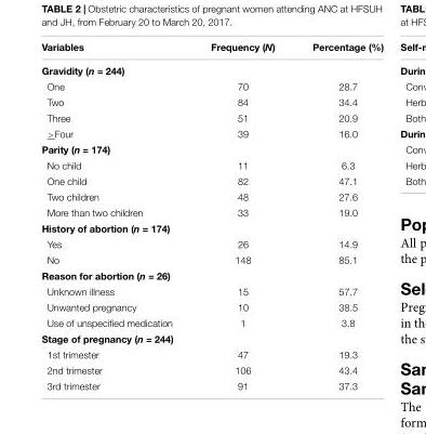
<table><thead><tr><td>Variables</td><td>Frequency (N)</td><td>Percentage (%)</td></tr></thead><tbody><tr><td colspan="3">Gravidity (n = 244)</td></tr><tr><td>One</td><td>70</td><td>28.7</td></tr><tr><td>Two</td><td>84</td><td>34.4</td></tr><tr><td>Three</td><td>51</td><td>20.9</td></tr><tr><td>&gt;Four</td><td>39</td><td>16.0</td></tr><tr><td colspan="3">Parity (n = 174)</td></tr><tr><td>No child</td><td>11</td><td>6.3</td></tr><tr><td>One child</td><td>82</td><td>47.1</td></tr><tr><td>Two children</td><td>48</td><td>27.6</td></tr><tr><td>More than two children</td><td>33</td><td>19.0</td></tr><tr><td colspan="3">History of abortion (n = 174)</td></tr><tr><td>Yes</td><td>26</td><td>14.9</td></tr><tr><td>No</td><td>148</td><td>85.1</td></tr><tr><td colspan="3">Reason for abortion (n = 26)</td></tr><tr><td>Unknown illness</td><td>15</td><td>57.7</td></tr><tr><td>Unwanted pregnancy</td><td>10</td><td>38.5</td></tr><tr><td>Use of unspecified medication</td><td>1</td><td>3.8</td></tr><tr><td colspan="3">Stage of pregnancy (n = 244)</td></tr><tr><td>1st trimester</td><td>47</td><td>19.3</td></tr><tr><td>2nd trimester</td><td>106</td><td>43.4</td></tr><tr><td>3rd trimester</td><td>91</td><td>37.3</td></tr></tbody></table>